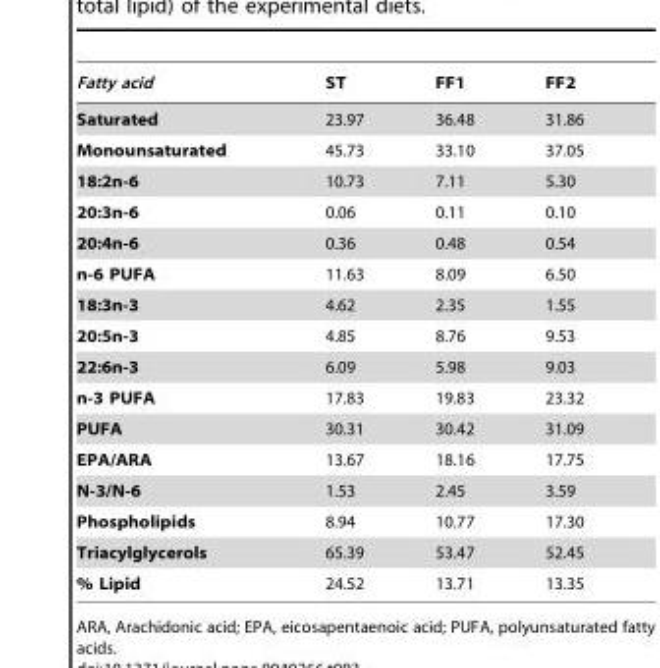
<table><thead><tr><td>Fatty acid</td><td>ST</td><td>FF1</td><td>FF2</td></tr></thead><tbody><tr><td>Saturated</td><td>23.97</td><td>36.48</td><td>31.86</td></tr><tr><td>Monounsaturated</td><td>45.73</td><td>33.10</td><td>37.05</td></tr><tr><td>18:2n-6</td><td>10.73</td><td>7.11</td><td>5.30</td></tr><tr><td>20:3n-6</td><td>0.06</td><td>0.11</td><td>0.10</td></tr><tr><td>20:4n-6</td><td>0.36</td><td>0.48</td><td>0.54</td></tr><tr><td>n-6 PUFA</td><td>11.63</td><td>8.09</td><td>6.50</td></tr><tr><td>18:3n-3</td><td>4.62</td><td>2.35</td><td>1.55</td></tr><tr><td>20:5n-3</td><td>4.85</td><td>8.76</td><td>9.53</td></tr><tr><td>22:6n-3</td><td>6.09</td><td>5.98</td><td>9.03</td></tr><tr><td>n-3 PUFA</td><td>17.83</td><td>19.83</td><td>23.32</td></tr><tr><td>PUFA</td><td>30.31</td><td>30.42</td><td>31.09</td></tr><tr><td>EPA/ARA</td><td>13.67</td><td>18.16</td><td>17.75</td></tr><tr><td>N-3/N-6</td><td>1.53</td><td>2.45</td><td>3.59</td></tr><tr><td>Phospholipids</td><td>8.94</td><td>10.77</td><td>17.30</td></tr><tr><td>Triacylglycerols</td><td>65.39</td><td>53.47</td><td>52.45</td></tr><tr><td>% Lipid</td><td>24.52</td><td>13.71</td><td>13.35</td></tr></tbody></table>